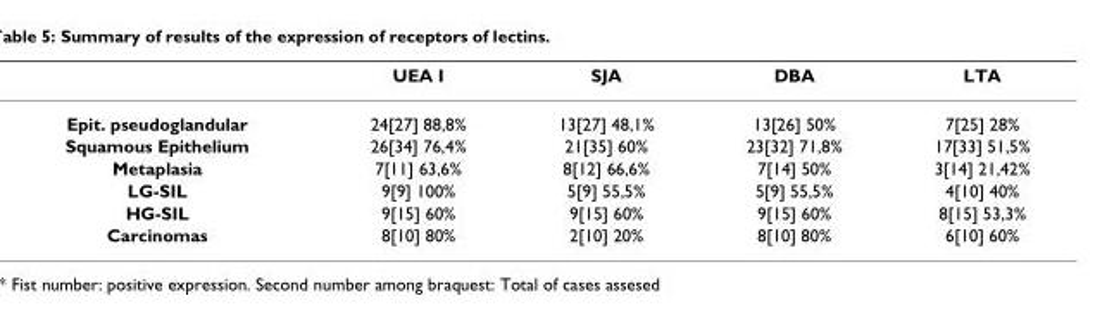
<table><thead><tr><td></td><td>UEA I</td><td>SJA</td><td>DBA</td><td>LTA</td></tr></thead><tbody><tr><td>Epit. pseudoglandular</td><td>24[27] 88,8%</td><td>13[27] 48,1%</td><td>13[26] 50%</td><td>7[25] 28%</td></tr><tr><td>Squamous Epithelium</td><td>26[34] 76,4%</td><td>21[35] 60%</td><td>23[32] 71,8%</td><td>17[33] 51,5%</td></tr><tr><td>Metaplasia</td><td>7[11] 63,6%</td><td>8[12] 66,6%</td><td>7[14] 50%</td><td>3[14] 21,42%</td></tr><tr><td>LG-SIL</td><td>9[9] 100%</td><td>5[9] 55,5%</td><td>5[9] 55,5%</td><td>4[10] 40%</td></tr><tr><td>HG-SIL</td><td>9[15] 60%</td><td>9[15] 60%</td><td>9[15] 60%</td><td>8[15] 53,3%</td></tr><tr><td>Carcinomas</td><td>8[10] 80%</td><td>2[10] 20%</td><td>8[10] 80%</td><td>6[10] 60%</td></tr></tbody></table>